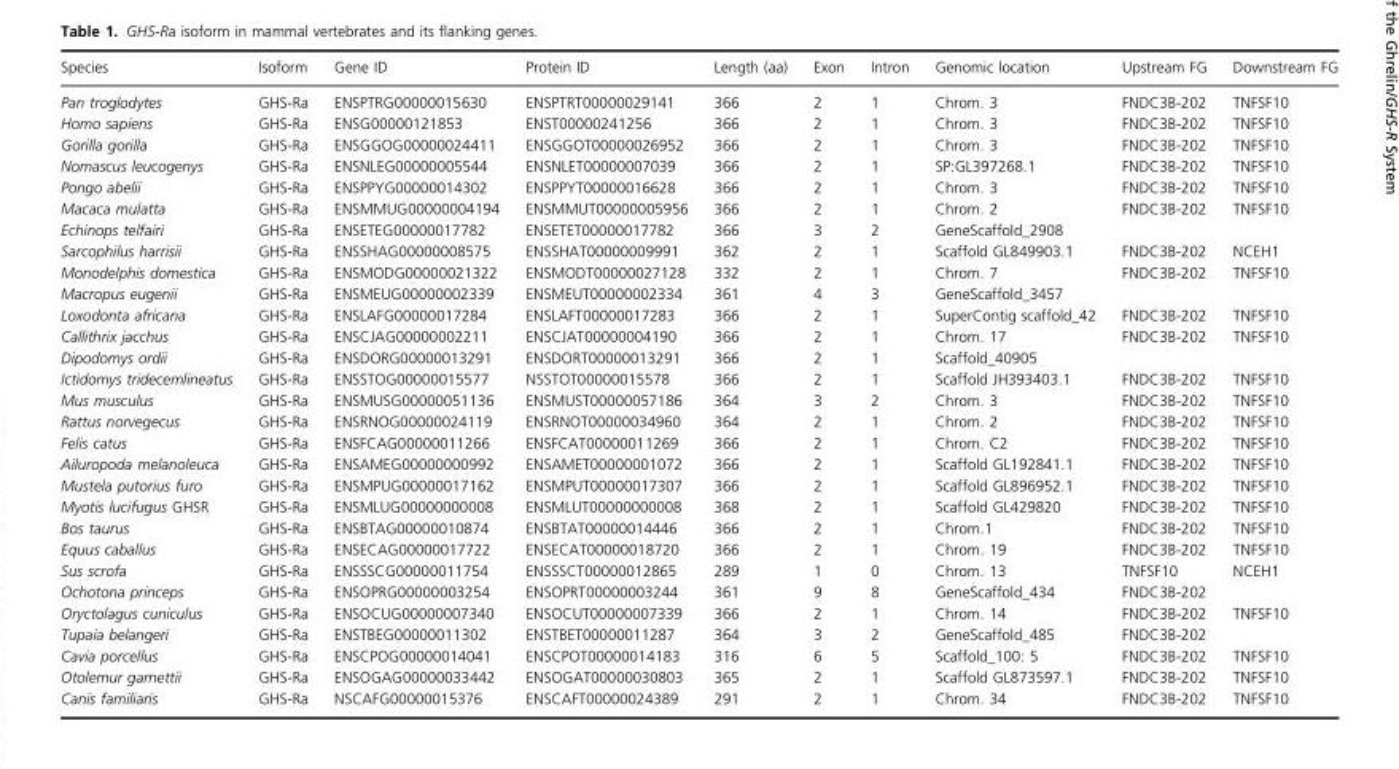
<table><thead><tr><td>Species</td><td>Isoform</td><td>Gene ID</td><td>Protein ID</td><td>Length (aa)</td><td>Exon</td><td>Intron</td><td>Genomic location</td><td>Upstream FG</td><td>Downstream FG</td></tr></thead><tbody><tr><td>Pan troglodytes</td><td>GHS-Ra</td><td>ENSPTRG00000015630</td><td>ENSPTRT00000029141</td><td>366</td><td>2</td><td>1</td><td>Chrom. 3</td><td>FNDC3B-202</td><td>TNFSF10</td></tr><tr><td>Homo sapiens</td><td>GHS-Ra</td><td>ENSG00000121853</td><td>ENST00000241256</td><td>366</td><td>2</td><td>1</td><td>Chrom. 3</td><td>FNDC3B-202</td><td>TNFSF10</td></tr><tr><td>Gorilla gorilla</td><td>GHS-Ra</td><td>ENSGGOG00000024411</td><td>ENSGGOT00000026952</td><td>366</td><td>2</td><td>1</td><td>Chrom. 3</td><td>FNDC3B-202</td><td>TNFSF10</td></tr><tr><td>Nomascus leucogenys</td><td>GHS-Ra</td><td>ENSNLEG00000005544</td><td>ENSNLET00000007039</td><td>366</td><td>2</td><td>1</td><td>SP:GL397268.1</td><td>FNDC3B-202</td><td>TNFSF10</td></tr><tr><td>Pongo abelii</td><td>GHS-Ra</td><td>ENSPPYG00000014302</td><td>ENSPPYT00000016628</td><td>366</td><td>2</td><td>1</td><td>Chrom. 3</td><td>FNDC3B-202</td><td>TNFSF10</td></tr><tr><td>Macaca mulatta</td><td>GHS-Ra</td><td>ENSMMUG00000004194</td><td>ENSMMUT00000005956</td><td>366</td><td>2</td><td>1</td><td>Chrom. 2</td><td>FNDC3B-202</td><td>TNFSF10</td></tr><tr><td>Echinops telfairi</td><td>GHS-Ra</td><td>ENSETEG00000017782</td><td>ENSETET00000017782</td><td>366</td><td>3</td><td>2</td><td>GeneScaffold_2908</td><td></td><td></td></tr><tr><td>Sarcophilus harrisii</td><td>GHS-Ra</td><td>ENSSHAG00000008575</td><td>ENSSHAT00000009991</td><td>362</td><td>2</td><td>1</td><td>Scaffold GL849903.1</td><td>FNDC3B-202</td><td>NCEH1</td></tr><tr><td>Monodelphis domestica</td><td>GHS-Ra</td><td>ENSMODG00000021322</td><td>ENSMODT00000027128</td><td>332</td><td>2</td><td>1</td><td>Chrom. 7</td><td>FNDC3B-202</td><td>TNFSF10</td></tr><tr><td>Macropus eugenii</td><td>GHS-Ra</td><td>ENSMEUG00000002339</td><td>ENSMEUT00000002334</td><td>361</td><td>4</td><td>3</td><td>GeneScaffold_3457</td><td></td><td></td></tr><tr><td>Loxodonta africana</td><td>GHS-Ra</td><td>ENSLAFG00000017284</td><td>ENSLAFT00000017283</td><td>366</td><td>2</td><td>1</td><td>SuperContig scaffold_42</td><td>FNDC3B-202</td><td>TNFSF10</td></tr><tr><td>Callithrix jacchus</td><td>GHS-Ra</td><td>ENSCJAG00000002211</td><td>ENSCJAT00000004190</td><td>366</td><td>2</td><td>1</td><td>Chrom. 17</td><td>FNDC3B-202</td><td>TNFSF10</td></tr><tr><td>Dipodomys ordii</td><td>GHS-Ra</td><td>ENSDORG00000013291</td><td>ENSDORT00000013291</td><td>366</td><td>2</td><td>1</td><td>Scaffold_40905</td><td></td><td></td></tr><tr><td>Ictidomys tridecemlineatus</td><td>GHS-Ra</td><td>ENSSTOG00000015577</td><td>NSSTOT00000015578</td><td>366</td><td>2</td><td>1</td><td>Scaffold JH393403.1</td><td>FNDC3B-202</td><td>TNFSF10</td></tr><tr><td>Mus musculus</td><td>GHS-Ra</td><td>ENSMUSG00000051136</td><td>ENSMUST00000057186</td><td>364</td><td>3</td><td>2</td><td>Chrom. 3</td><td>FNDC3B-202</td><td>TNFSF10</td></tr><tr><td>Rattus norvegecus</td><td>GHS-Ra</td><td>ENSRNOG00000024119</td><td>ENSRNOT00000034960</td><td>364</td><td>2</td><td>1</td><td>Chrom. 2</td><td>FNDC3B-202</td><td>TNFSF10</td></tr><tr><td>Felis catus</td><td>GHS-Ra</td><td>ENSFCAG00000011266</td><td>ENSFCAT00000011269</td><td>366</td><td>2</td><td>1</td><td>Chrom. C2</td><td>FNDC3B-202</td><td>TNFSF10</td></tr><tr><td>Ailuropoda melanoleuca</td><td>GHS-Ra</td><td>ENSAMEG00000000992</td><td>ENSAMET00000001072</td><td>366</td><td>2</td><td>1</td><td>Scaffold GL192841.1</td><td>FNDC3B-202</td><td>TNFSF10</td></tr><tr><td>Mustela putorius furo</td><td>GHS-Ra</td><td>ENSMPUG00000017162</td><td>ENSMPUT00000017307</td><td>366</td><td>2</td><td>1</td><td>Scaffold GL896952.1</td><td>FNDC3B-202</td><td>TNFSF10</td></tr><tr><td>Myotis lucifugus GHSR</td><td>GHS-Ra</td><td>ENSMLUG00000000008</td><td>ENSMLUT00000000008</td><td>368</td><td>2</td><td>1</td><td>Scaffold GL429820</td><td>FNDC3B-202</td><td>TNFSF10</td></tr><tr><td>Bos taurus</td><td>GHS-Ra</td><td>ENSBTAG00000010874</td><td>ENSBTAT00000014446</td><td>366</td><td>2</td><td>1</td><td>Chrom.1</td><td>FNDC3B-202</td><td>TNFSF10</td></tr><tr><td>Equus caballus</td><td>GHS-Ra</td><td>ENSECAG00000017722</td><td>ENSECAT00000018720</td><td>366</td><td>2</td><td>1</td><td>Chrom. 19</td><td>FNDC3B-202</td><td>TNFSF10</td></tr><tr><td>Sus scrofa</td><td>GHS-Ra</td><td>ENSSSCG00000011754</td><td>ENSSSCT00000012865</td><td>289</td><td>1</td><td>0</td><td>Chrom. 13</td><td>TNFSF10</td><td>NCEH1</td></tr><tr><td>Ochotona princeps</td><td>GHS-Ra</td><td>ENSOPRG00000003254</td><td>ENSOPRT00000003244</td><td>361</td><td>9</td><td>8</td><td>GeneScaffold_434</td><td>FNDC3B-202</td><td></td></tr><tr><td>Oryctolagus cuniculus</td><td>GHS-Ra</td><td>ENSOCUG00000007340</td><td>ENSOCUT00000007339</td><td>366</td><td>2</td><td>1</td><td>Chrom. 14</td><td>FNDC3B-202</td><td>TNFSF10</td></tr><tr><td>Tupaia belangeri</td><td>GHS-Ra</td><td>ENSTBEG00000011302</td><td>ENSTBET00000011287</td><td>364</td><td>3</td><td>2</td><td>GeneScaffold_485</td><td>FNDC3B-202</td><td></td></tr><tr><td>Cavia porcellus</td><td>GHS-Ra</td><td>ENSCPOG00000014041</td><td>ENSCPOT00000014183</td><td>316</td><td>6</td><td>5</td><td>Scaffold_100: 5</td><td>FNDC3B-202</td><td>TNFSF10</td></tr><tr><td>Otolemur garnettii</td><td>GHS-Ra</td><td>ENSOGAG00000033442</td><td>ENSOGAT00000030803</td><td>365</td><td>2</td><td>1</td><td>Scaffold GL873597.1</td><td>FNDC3B-202</td><td>TNFSF10</td></tr><tr><td>Canis familiaris</td><td>GHS-Ra</td><td>NSCAFG00000015376</td><td>ENSCAFT00000024389</td><td>291</td><td>2</td><td>1</td><td>Chrom. 34</td><td>FNDC3B-202</td><td>TNFSF10</td></tr></tbody></table>